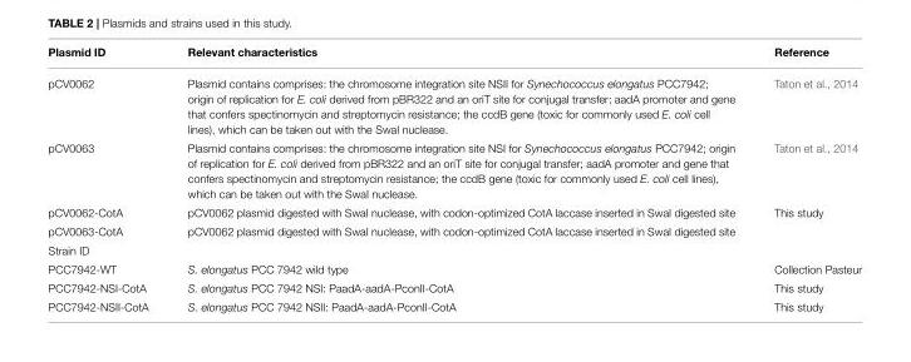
<table><thead><tr><td>Plasmid ID</td><td>Relevant characteristics</td><td>Reference</td></tr></thead><tbody><tr><td>pCV0062</td><td>Plasmid contains comprises: the chromosome integration site NSII for Synechococcus elongatus PCC7942; origin of replication for E. coli derived from pBR322 and an oriT site for conjugal transfer; aadA promoter and gene that confers spectinomycin and streptomycin resistance; the ccdB gene (toxic for commonly used E. coli cell lines), which can be taken out with the SwaI nuclease.</td><td>Taton et al., 2014</td></tr><tr><td>pCV0063</td><td>Plasmid contains comprises: the chromosome integration site NSI for Synechococcus elongatus PCC7942; origin of replication for E. coli derived from pBR322 and an oriT site for conjugal transfer; aadA promoter and gene that confers spectinomycin and streptomycin resistance; the ccdB gene (toxic for commonly used E. coli cell lines), which can be taken out with the SwaI nuclease.</td><td>Taton et al., 2014</td></tr><tr><td>pCV0062-CotA</td><td>pCV0062 plasmid digested with SwaI nuclease, with codon-optimized CotA laccase inserted in SwaI digested site</td><td>This study</td></tr><tr><td>pCV0063-CotA</td><td>pCV0062 plasmid digested with SwaI nuclease, with codon-optimized CotA laccase inserted in SwaI digested site</td><td></td></tr><tr><td colspan="3">Strain ID</td></tr><tr><td>PCC7942-WT</td><td>S. elongatus PCC 7942 wild type</td><td>Collection Pasteur</td></tr><tr><td>PCC7942-NSI-CotA</td><td>S. elongatus PCC 7942 NSI: PaadA-aadA-PconII-CotA</td><td>This study</td></tr><tr><td>PCC7942-NSII-CotA</td><td>S. elongatus PCC 7942 NSII: PaadA-aadA-PconII-CotA</td><td>This study</td></tr></tbody></table>